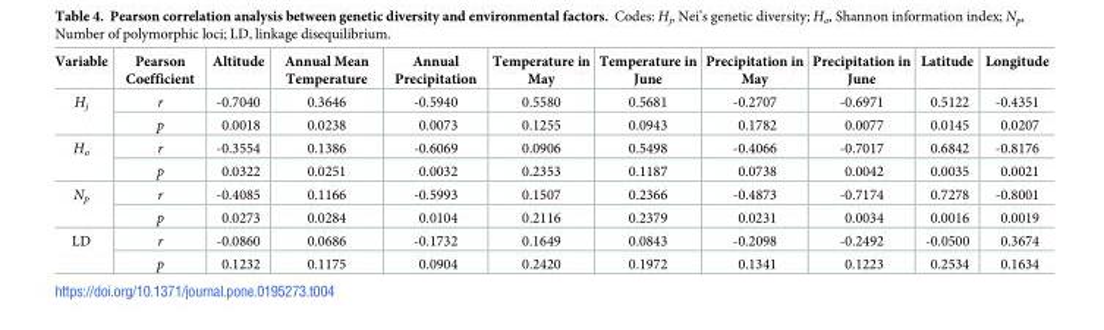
<table><thead><tr><td>Variable</td><td>Pearson Coefficient</td><td>Altitude</td><td>Annual Mean Temperature</td><td>Annual Precipitation</td><td>Temperature in May</td><td>Temperature in June</td><td>Precipitation in May</td><td>Precipitation in June</td><td>Latitude</td><td>Longitude</td></tr></thead><tbody><tr><td rowspan="2">H<sub>j</sub></td><td>r</td><td>-0.7040</td><td>0.3646</td><td>-0.5940</td><td>0.5580</td><td>0.5681</td><td>-0.2707</td><td>-0.6971</td><td>0.5122</td><td>-0.4351</td></tr><tr><td>p</td><td>0.0018</td><td>0.0238</td><td>0.0073</td><td>0.1255</td><td>0.0943</td><td>0.1782</td><td>0.0077</td><td>0.0145</td><td>0.0207</td></tr><tr><td rowspan="2">H<sub>o</sub></td><td>r</td><td>-0.3554</td><td>0.1386</td><td>-0.6069</td><td>0.0906</td><td>0.5498</td><td>-0.4066</td><td>-0.7017</td><td>0.6842</td><td>-0.8176</td></tr><tr><td>p</td><td>0.0322</td><td>0.0251</td><td>0.0032</td><td>0.2353</td><td>0.1187</td><td>0.0738</td><td>0.0042</td><td>0.0035</td><td>0.0021</td></tr><tr><td rowspan="2">N<sub>p</sub></td><td>r</td><td>-0.4085</td><td>0.1166</td><td>-0.5993</td><td>0.1507</td><td>0.2366</td><td>-0.4873</td><td>-0.7174</td><td>0.7278</td><td>-0.8001</td></tr><tr><td>p</td><td>0.0273</td><td>0.0284</td><td>0.0104</td><td>0.2116</td><td>0.2379</td><td>0.0231</td><td>0.0034</td><td>0.0016</td><td>0.0019</td></tr><tr><td rowspan="2">LD</td><td>r</td><td>-0.0860</td><td>0.0686</td><td>-0.1732</td><td>0.1649</td><td>0.0843</td><td>-0.2098</td><td>-0.2492</td><td>-0.0500</td><td>0.3674</td></tr><tr><td>p</td><td>0.1232</td><td>0.1175</td><td>0.0904</td><td>0.2420</td><td>0.1972</td><td>0.1341</td><td>0.1223</td><td>0.2534</td><td>0.1634</td></tr></tbody></table>